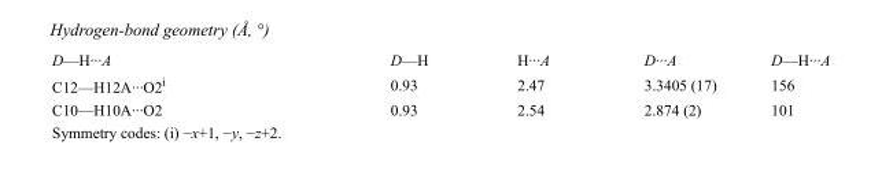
<table><tbody><tr><td>D—H···A</td><td>D—H</td><td>H···A</td><td>D···A</td><td>D—H···A</td></tr><tr><td>C12—H12A···O2<sup>i</sup></td><td>0.93</td><td>2.47</td><td>3.3405 (17)</td><td>156</td></tr><tr><td>C10—H10A···O2</td><td>0.93</td><td>2.54</td><td>2.874 (2)</td><td>101</td></tr></tbody></table>